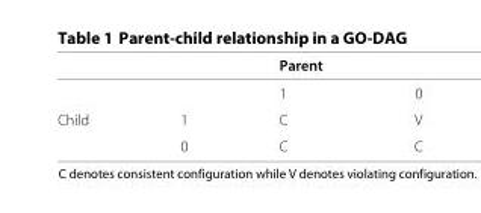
<table><thead><tr><td></td><td></td><td>Parent</td><td></td></tr></thead><tbody><tr><td></td><td></td><td>1</td><td>0</td></tr><tr><td rowspan="2">Child</td><td>1</td><td>C</td><td>V</td></tr><tr><td>0</td><td>C</td><td>C</td></tr></tbody></table>